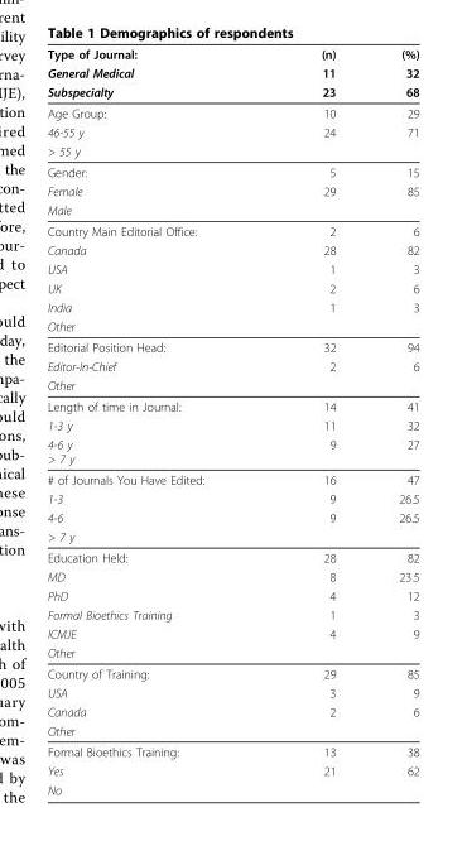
<table><thead><tr><td rowspan="3">Type of Journal: General Medical Subspecialty</td><td rowspan="3">(n) 11 23</td><td rowspan="3">(%) 32 68</td></tr><tr></tr><tr></tr></thead><tbody><tr><td>Age Group:</td><td>10</td><td>29</td></tr><tr><td>46-55 y</td><td>24</td><td>71</td></tr><tr><td colspan="3">&gt; 55 y</td></tr><tr><td>Gender:</td><td>5</td><td>15</td></tr><tr><td>Female</td><td>29</td><td>85</td></tr><tr><td colspan="3">Male</td></tr><tr><td>Country Main Editorial Office:</td><td>2</td><td>6</td></tr><tr><td>Canada</td><td>28</td><td>82</td></tr><tr><td>USA</td><td>1</td><td>3</td></tr><tr><td>UK</td><td>2</td><td>6</td></tr><tr><td>India</td><td>1</td><td>3</td></tr><tr><td colspan="3">Other</td></tr><tr><td>Editorial Position Head:</td><td>32</td><td>94</td></tr><tr><td>Editor-In-Chief</td><td>2</td><td>6</td></tr><tr><td colspan="3">Other</td></tr><tr><td>Length of time in Journal:</td><td>14</td><td>41</td></tr><tr><td>1-3 y</td><td>11</td><td>32</td></tr><tr><td>4-6 y &gt; 7 y</td><td>9</td><td>27</td></tr><tr><td># of Journals You Have Edited:</td><td>16</td><td>47</td></tr><tr><td>1-3</td><td>9</td><td>26.5</td></tr><tr><td>4-6</td><td>9</td><td>26.5</td></tr><tr><td colspan="3">&gt; 7 y</td></tr><tr><td>Education Held:</td><td>28</td><td>82</td></tr><tr><td>MD</td><td>8</td><td>23.5</td></tr><tr><td>PhD</td><td>4</td><td>12</td></tr><tr><td>Formal Bioethics Training</td><td>1</td><td>3</td></tr><tr><td>ICMJE</td><td>4</td><td>9</td></tr><tr><td colspan="3">Other</td></tr><tr><td>Country of Training:</td><td>29</td><td>85</td></tr><tr><td>USA</td><td>3</td><td>9</td></tr><tr><td>Canada</td><td>2</td><td>6</td></tr><tr><td colspan="3">Other</td></tr><tr><td>Formal Bioethics Training:</td><td>13</td><td>38</td></tr><tr><td>Yes</td><td>21</td><td>62</td></tr><tr><td>No</td><td></td><td></td></tr></tbody></table>